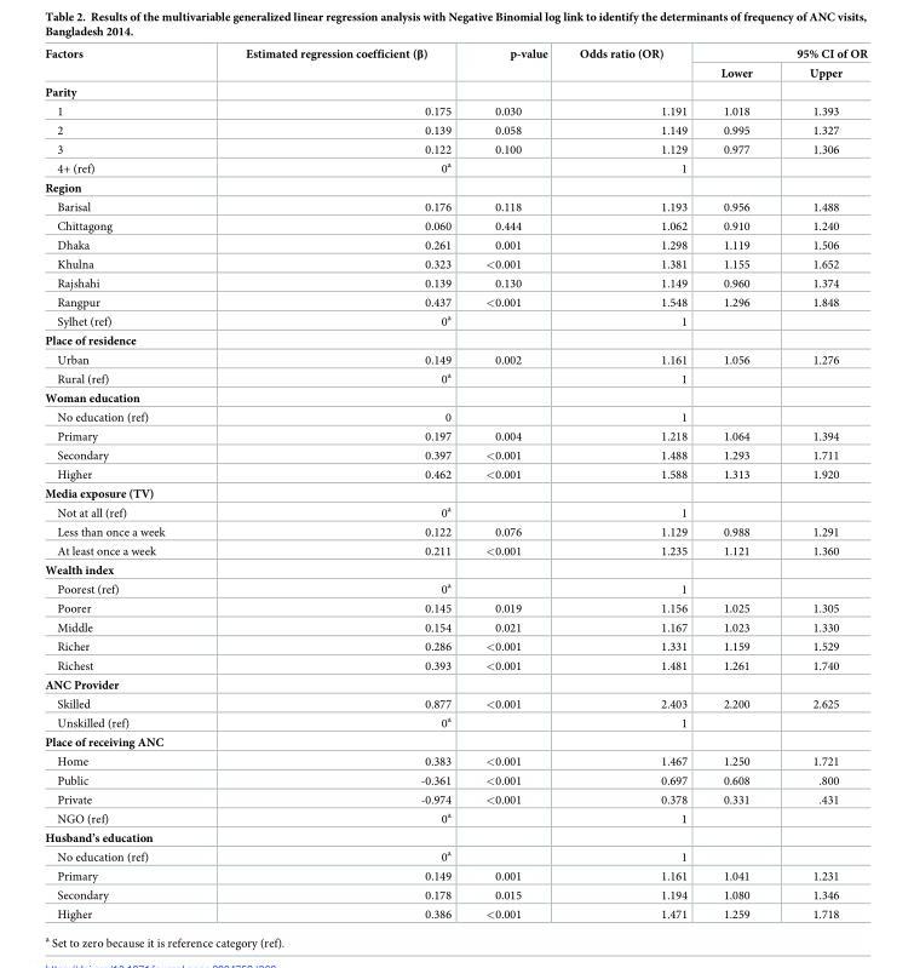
<table><thead><tr><td rowspan="2">Factors</td><td rowspan="2">Estimated regression coefficient (β)</td><td rowspan="2">p-value</td><td rowspan="2">Odds ratio (OR)</td><td colspan="2">95% CI of OR</td></tr><tr><td>Lower</td><td>Upper</td></tr></thead><tbody><tr><td colspan="6">Parity</td></tr><tr><td>1</td><td>0.175</td><td>0.030</td><td>1.191</td><td>1.018</td><td>1.393</td></tr><tr><td>2</td><td>0.139</td><td>0.058</td><td>1.149</td><td>0.995</td><td>1.327</td></tr><tr><td>3</td><td>0.122</td><td>0.100</td><td>1.129</td><td>0.977</td><td>1.306</td></tr><tr><td>4+ (ref)</td><td>0<sup>a</sup></td><td></td><td>1</td><td></td><td></td></tr><tr><td colspan="6">Region</td></tr><tr><td>Barisal</td><td>0.176</td><td>0.118</td><td>1.193</td><td>0.956</td><td>1.488</td></tr><tr><td>Chittagong</td><td>0.060</td><td>0.444</td><td>1.062</td><td>0.910</td><td>1.240</td></tr><tr><td>Dhaka</td><td>0.261</td><td>0.001</td><td>1.298</td><td>1.119</td><td>1.506</td></tr><tr><td>Khulna</td><td>0.323</td><td>&lt;0.001</td><td>1.381</td><td>1.155</td><td>1.652</td></tr><tr><td>Rajshahi</td><td>0.139</td><td>0.130</td><td>1.149</td><td>0.960</td><td>1.374</td></tr><tr><td>Rangpur</td><td>0.437</td><td>&lt;0.001</td><td>1.548</td><td>1.296</td><td>1.848</td></tr><tr><td>Sylhet (ref)</td><td>0<sup>a</sup></td><td></td><td>1</td><td></td><td></td></tr><tr><td colspan="6">Place of residence</td></tr><tr><td>Urban</td><td>0.149</td><td>0.002</td><td>1.161</td><td>1.056</td><td>1.276</td></tr><tr><td>Rural (ref)</td><td>0<sup>a</sup></td><td></td><td>1</td><td></td><td></td></tr><tr><td colspan="6">Woman education</td></tr><tr><td>No education (ref)</td><td>0</td><td></td><td>1</td><td></td><td></td></tr><tr><td>Primary</td><td>0.197</td><td>0.004</td><td>1.218</td><td>1.064</td><td>1.394</td></tr><tr><td>Secondary</td><td>0.397</td><td>&lt;0.001</td><td>1.488</td><td>1.293</td><td>1.711</td></tr><tr><td>Higher</td><td>0.462</td><td>&lt;0.001</td><td>1.588</td><td>1.313</td><td>1.920</td></tr><tr><td colspan="6">Media exposure (TV)</td></tr><tr><td>Not at all (ref)</td><td>0<sup>a</sup></td><td></td><td>1</td><td></td><td></td></tr><tr><td>Less than once a week</td><td>0.122</td><td>0.076</td><td>1.129</td><td>0.988</td><td>1.291</td></tr><tr><td>At least once a week</td><td>0.211</td><td>&lt;0.001</td><td>1.235</td><td>1.121</td><td>1.360</td></tr><tr><td colspan="6">Wealth index</td></tr><tr><td>Poorest (ref)</td><td>0<sup>a</sup></td><td></td><td>1</td><td></td><td></td></tr><tr><td>Poorer</td><td>0.145</td><td>0.019</td><td>1.156</td><td>1.025</td><td>1.305</td></tr><tr><td>Middle</td><td>0.154</td><td>0.021</td><td>1.167</td><td>1.023</td><td>1.330</td></tr><tr><td>Richer</td><td>0.286</td><td>&lt;0.001</td><td>1.331</td><td>1.159</td><td>1.529</td></tr><tr><td>Richest</td><td>0.393</td><td>&lt;0.001</td><td>1.481</td><td>1.261</td><td>1.740</td></tr><tr><td colspan="6">ANC Provider</td></tr><tr><td>Skilled</td><td>0.877</td><td>&lt;0.001</td><td>2.403</td><td>2.200</td><td>2.625</td></tr><tr><td>Unskilled (ref)</td><td>0<sup>a</sup></td><td></td><td>1</td><td></td><td></td></tr><tr><td colspan="6">Place of receiving ANC</td></tr><tr><td>Home</td><td>0.383</td><td>&lt;0.001</td><td>1.467</td><td>1.250</td><td>1.721</td></tr><tr><td>Public</td><td>-0.361</td><td>&lt;0.001</td><td>0.697</td><td>0.608</td><td>.800</td></tr><tr><td>Private</td><td>-0.974</td><td>&lt;0.001</td><td>0.378</td><td>0.331</td><td>.431</td></tr><tr><td>NGO (ref)</td><td>0<sup>a</sup></td><td></td><td>1</td><td></td><td></td></tr><tr><td colspan="6">Husband’s education</td></tr><tr><td>No education (ref)</td><td>0<sup>a</sup></td><td></td><td>1</td><td></td><td></td></tr><tr><td>Primary</td><td>0.149</td><td>0.001</td><td>1.161</td><td>1.041</td><td>1.231</td></tr><tr><td>Secondary</td><td>0.178</td><td>0.015</td><td>1.194</td><td>1.080</td><td>1.346</td></tr><tr><td>Higher</td><td>0.386</td><td>&lt;0.001</td><td>1.471</td><td>1.259</td><td>1.718</td></tr></tbody></table>